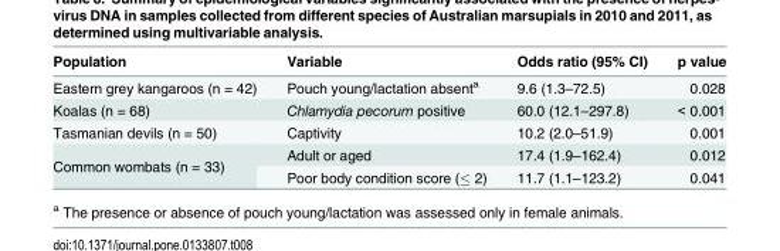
<table><thead><tr><td>Population</td><td>Variable</td><td>Odds ratio (95% CI)</td><td>p value</td></tr></thead><tbody><tr><td>Eastern grey kangaroos (n = 42)</td><td>Pouch young/lactation absent<sup>a</sup></td><td>9.6 (1.3–72.5)</td><td>0.028</td></tr><tr><td>Koalas (n = 68)</td><td>Chlamydia pecorum positive</td><td>60.0 (12.1–297.8)</td><td>&lt; 0.001</td></tr><tr><td>Tasmanian devils (n = 50)</td><td>Captivity</td><td>10.2 (2.0–51.9)</td><td>0.001</td></tr><tr><td rowspan="2">Common wombats (n = 33)</td><td>Adult or aged</td><td>17.4 (1.9–162.4)</td><td>0.012</td></tr><tr><td>Poor body condition score (≤ 2)</td><td>11.7 (1.1–123.2)</td><td>0.041</td></tr></tbody></table>